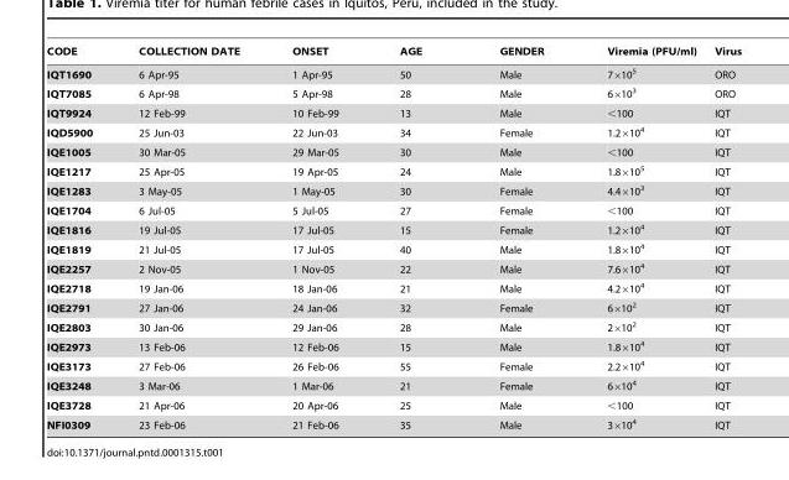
<table><thead><tr><td>CODE</td><td>COLLECTION DATE</td><td>ONSET</td><td>AGE</td><td>GENDER</td><td>Viremia (PFU/ml)</td><td>Virus</td></tr></thead><tbody><tr><td>IQT1690</td><td>6 Apr-95</td><td>1 Apr-95</td><td>50</td><td>Male</td><td>7×10<sup>5</sup></td><td>ORO</td></tr><tr><td>IQT7085</td><td>6 Apr-98</td><td>5 Apr-98</td><td>28</td><td>Male</td><td>6×10<sup>3</sup></td><td>ORO</td></tr><tr><td>IQT9924</td><td>12 Feb-99</td><td>10 Feb-99</td><td>13</td><td>Male</td><td>&lt;100</td><td>IQT</td></tr><tr><td>IQD5900</td><td>25 Jun-03</td><td>22 Jun-03</td><td>34</td><td>Female</td><td>1.2×10<sup>4</sup></td><td>IQT</td></tr><tr><td>IQE1005</td><td>30 Mar-05</td><td>29 Mar-05</td><td>30</td><td>Male</td><td>&lt;100</td><td>IQT</td></tr><tr><td>IQE1217</td><td>25 Apr-05</td><td>19 Apr-05</td><td>24</td><td>Male</td><td>1.8×10<sup>5</sup></td><td>IQT</td></tr><tr><td>IQE1283</td><td>3 May-05</td><td>1 May-05</td><td>30</td><td>Female</td><td>4.4×10<sup>3</sup></td><td>IQT</td></tr><tr><td>IQE1704</td><td>6 Jul-05</td><td>5 Jul-05</td><td>27</td><td>Female</td><td>&lt;100</td><td>IQT</td></tr><tr><td>IQE1816</td><td>19 Jul-05</td><td>17 Jul-05</td><td>15</td><td>Female</td><td>1.2×10<sup>4</sup></td><td>IQT</td></tr><tr><td>IQE1819</td><td>21 Jul-05</td><td>17 Jul-05</td><td>40</td><td>Male</td><td>1.8×10<sup>4</sup></td><td>IQT</td></tr><tr><td>IQE2257</td><td>2 Nov-05</td><td>1 Nov-05</td><td>22</td><td>Male</td><td>7.6×10<sup>4</sup></td><td>IQT</td></tr><tr><td>IQE2718</td><td>19 Jan-06</td><td>18 Jan-06</td><td>21</td><td>Male</td><td>4.2×10<sup>4</sup></td><td>IQT</td></tr><tr><td>IQE2791</td><td>27 Jan-06</td><td>24 Jan-06</td><td>32</td><td>Female</td><td>6×10<sup>2</sup></td><td>IQT</td></tr><tr><td>IQE2803</td><td>30 Jan-06</td><td>29 Jan-06</td><td>28</td><td>Male</td><td>2×10<sup>2</sup></td><td>IQT</td></tr><tr><td>IQE2973</td><td>13 Feb-06</td><td>12 Feb-06</td><td>15</td><td>Male</td><td>1.8×10<sup>4</sup></td><td>IQT</td></tr><tr><td>IQE3173</td><td>27 Feb-06</td><td>26 Feb-06</td><td>55</td><td>Female</td><td>2.2×10<sup>4</sup></td><td>IQT</td></tr><tr><td>IQE3248</td><td>3 Mar-06</td><td>1 Mar-06</td><td>21</td><td>Female</td><td>6×10<sup>4</sup></td><td>IQT</td></tr><tr><td>IQE3728</td><td>21 Apr-06</td><td>20 Apr-06</td><td>25</td><td>Male</td><td>&lt;100</td><td>IQT</td></tr><tr><td>NFI0309</td><td>23 Feb-06</td><td>21 Feb-06</td><td>35</td><td>Male</td><td>3×10<sup>4</sup></td><td>IQT</td></tr></tbody></table>